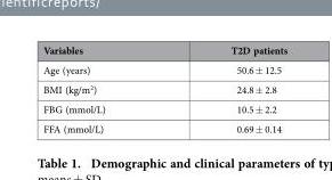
<table><thead><tr><td>Variables</td><td>T2D patients</td></tr></thead><tbody><tr><td>Age (years)</td><td>50.6 ± 12.5</td></tr><tr><td>BMI (kg/m<sup>2</sup>)</td><td>24.8 ± 2.8</td></tr><tr><td>FBG (mmol/L)</td><td>10.5 ± 2.2</td></tr><tr><td>FFA (mmol/L)</td><td>0.69 ± 0.14</td></tr></tbody></table>